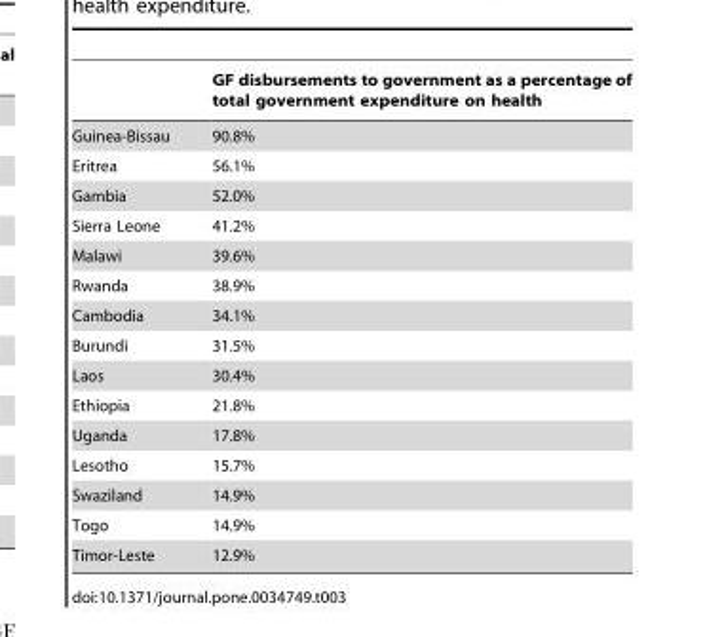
<table><thead><tr><td></td><td>GF disbursements to government as a percentage of total government expenditure on health</td></tr></thead><tbody><tr><td>Guinea-Bissau</td><td>90.8%</td></tr><tr><td>Eritrea</td><td>56.1%</td></tr><tr><td>Gambia</td><td>52.0%</td></tr><tr><td>Sierra Leone</td><td>41.2%</td></tr><tr><td>Malawi</td><td>39.6%</td></tr><tr><td>Rwanda</td><td>38.9%</td></tr><tr><td>Cambodia</td><td>34.1%</td></tr><tr><td>Burundi</td><td>31.5%</td></tr><tr><td>Laos</td><td>30.4%</td></tr><tr><td>Ethiopia</td><td>21.8%</td></tr><tr><td>Uganda</td><td>17.8%</td></tr><tr><td>Lesotho</td><td>15.7%</td></tr><tr><td>Swaziland</td><td>14.9%</td></tr><tr><td>Togo</td><td>14.9%</td></tr><tr><td>Timor-Leste</td><td>12.9%</td></tr></tbody></table>